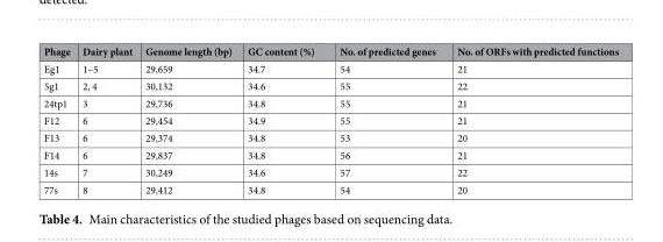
<table><thead><tr><td>Phage</td><td>Dairy plant</td><td>Genome length (bp)</td><td>GC content (%)</td><td>No. of predicted genes</td><td>No. of ORFs with predicted functions</td></tr></thead><tbody><tr><td>Eg1</td><td>1–5</td><td>29,659</td><td>34.7</td><td>54</td><td>21</td></tr><tr><td>5g1</td><td>2, 4</td><td>30,132</td><td>34.6</td><td>55</td><td>22</td></tr><tr><td>24tp1</td><td>3</td><td>29,736</td><td>34.8</td><td>55</td><td>21</td></tr><tr><td>F12</td><td>6</td><td>29,454</td><td>34.9</td><td>55</td><td>21</td></tr><tr><td>F13</td><td>6</td><td>29,374</td><td>34.8</td><td>53</td><td>20</td></tr><tr><td>F14</td><td>6</td><td>29,837</td><td>34.8</td><td>56</td><td>21</td></tr><tr><td>14s</td><td>7</td><td>30,249</td><td>34.6</td><td>57</td><td>22</td></tr><tr><td>77s</td><td>8</td><td>29,412</td><td>34.8</td><td>54</td><td>20</td></tr></tbody></table>